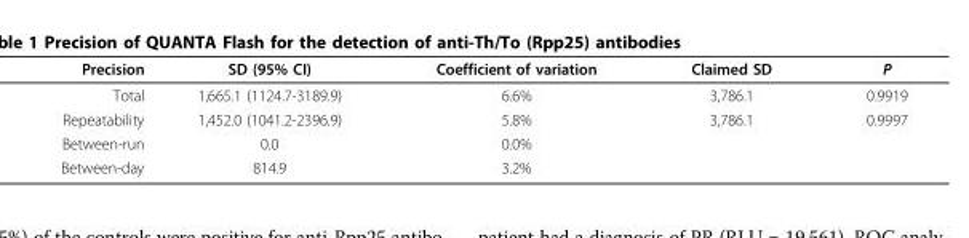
<table><thead><tr><td>Precision</td><td>SD (95% CI)</td><td>Coefficient of variation</td><td>Claimed SD</td><td>P</td></tr></thead><tbody><tr><td>Total</td><td>1,665.1 (1124.7-3189.9)</td><td>6.6%</td><td>3,786.1</td><td>0.9919</td></tr><tr><td>Repeatability</td><td>1,452.0 (1041.2-2396.9)</td><td>5.8%</td><td>3,786.1</td><td>0.9997</td></tr><tr><td>Between-run</td><td>0.0</td><td>0.0%</td><td></td><td></td></tr><tr><td>Between-day</td><td>814.9</td><td>3.2%</td><td></td><td></td></tr></tbody></table>